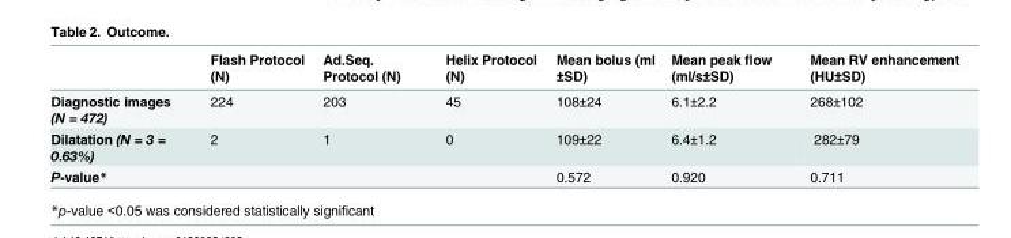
<table><thead><tr><td></td><td>Flash Protocol (N)</td><td>Ad.Seq. Protocol (N)</td><td>Helix Protocol (N)</td><td>Mean bolus (ml ±SD)</td><td>Mean peak flow (ml/s±SD)</td><td>Mean RV enhancement (HU±SD)</td></tr></thead><tbody><tr><td>Diagnostic images (N = 472)</td><td>224</td><td>203</td><td>45</td><td>108±24</td><td>6.1±2.2</td><td>268±102</td></tr><tr><td>Dilatation (N = 3 = 0.63%)</td><td>2</td><td>1</td><td>0</td><td>109±22</td><td>6.4±1.2</td><td>282±79</td></tr><tr><td>P-value*</td><td></td><td></td><td></td><td>0.572</td><td>0.920</td><td>0.711</td></tr></tbody></table>